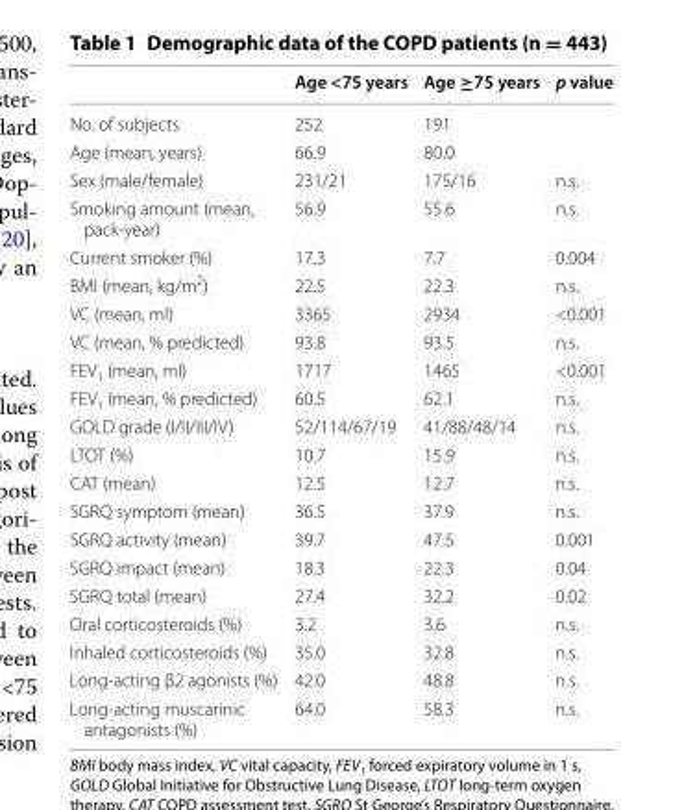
<table><thead><tr><td></td><td>Age &lt;75 years</td><td>Age ≥75 years</td><td>p value</td></tr></thead><tbody><tr><td>No. of subjects</td><td>252</td><td>191</td><td></td></tr><tr><td>Age (mean, years)</td><td>66.9</td><td>80.0</td><td></td></tr><tr><td>Sex (male/female)</td><td>231/21</td><td>175/16</td><td>n.s.</td></tr><tr><td>Smoking amount (mean, pack-year)</td><td>56.9</td><td>55.6</td><td>n.s.</td></tr><tr><td>Current smoker (%)</td><td>17.3</td><td>7.7</td><td>0.004</td></tr><tr><td>BMI (mean, kg/m<sup>2</sup>)</td><td>22.5</td><td>22.3</td><td>n.s.</td></tr><tr><td>VC (mean, ml)</td><td>3365</td><td>2934</td><td>&lt;0.001</td></tr><tr><td>VC (mean, % predicted)</td><td>93.8</td><td>93.5</td><td>n.s.</td></tr><tr><td>FEV<sub>1</sub> (mean, ml)</td><td>1717</td><td>1465</td><td>&lt;0.001</td></tr><tr><td>FEV<sub>1</sub> (mean, % predicted)</td><td>60.5</td><td>62.1</td><td>n.s.</td></tr><tr><td>GOLD grade (I/II/III/IV)</td><td>52/114/67/19</td><td>41/88/48/14</td><td>n.s.</td></tr><tr><td>LTOT (%)</td><td>10.7</td><td>15.9</td><td>n.s.</td></tr><tr><td>CAT (mean)</td><td>12.5</td><td>12.7</td><td>n.s.</td></tr><tr><td>SGRQ symptom (mean)</td><td>36.5</td><td>37.9</td><td>n.s.</td></tr><tr><td>SGRQ activity (mean)</td><td>39.7</td><td>47.5</td><td>0.001</td></tr><tr><td>SGRQ impact (mean)</td><td>18.3</td><td>22.3</td><td>0.04</td></tr><tr><td>SGRQ total (mean)</td><td>27.4</td><td>32.2</td><td>0.02</td></tr><tr><td>Oral corticosteroids (%)</td><td>3.2</td><td>3.6</td><td>n.s.</td></tr><tr><td>Inhaled corticosteroids (%)</td><td>35.0</td><td>32.8</td><td>n.s.</td></tr><tr><td>Long-acting β2 agonists (%)</td><td>42.0</td><td>48.8</td><td>n.s.</td></tr><tr><td>Long-acting muscarinic antagonists (%)</td><td>64.0</td><td>58.3</td><td>n.s.</td></tr></tbody></table>